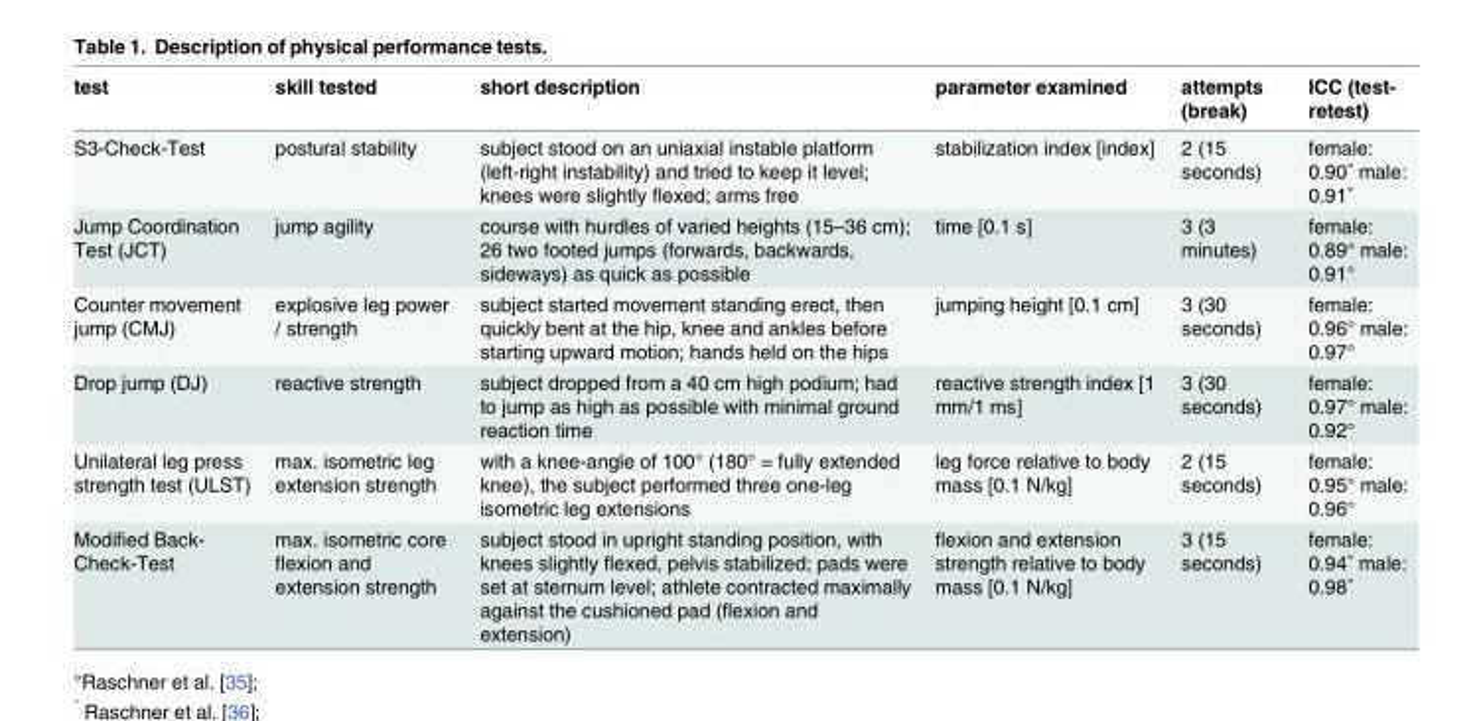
<table><thead><tr><td>test</td><td>skill tested</td><td>short description</td><td>parameter examined</td><td>attempts (break)</td><td>ICC (test- retest)</td></tr></thead><tbody><tr><td>S3-Check-Test</td><td>postural stability</td><td>subject stood on an uniaxial instable platform (left-right instability) and tried to keep it level; knees were slightly flexed; arms free</td><td>stabilization index [index]</td><td>2 (15 seconds)</td><td>female: 0.90ˇ male: 0.91ˇ</td></tr><tr><td>Jump Coordination Test (JCT)</td><td>jump agility</td><td>course with hurdles of varied heights (15–36 cm); 26 two footed jumps (forwards, backwards, sideways) as quick as possible</td><td>time [0.1 s]</td><td>3 (3 minutes)</td><td>female: 0.89° male: 0.91°</td></tr><tr><td>Counter movement jump (CMJ)</td><td>explosive leg power / strength</td><td>subject started movement standing erect, then quickly bent at the hip, knee and ankles before starting upward motion; hands held on the hips</td><td>jumping height [0.1 cm]</td><td>3 (30 seconds)</td><td>female: 0.96° male: 0.97°</td></tr><tr><td>Drop jump (DJ)</td><td>reactive strength</td><td>subject dropped from a 40 cm high podium; had to jump as high as possible with minimal ground reaction time</td><td>reactive strength index [1 mm/1 ms]</td><td>3 (30 seconds)</td><td>female: 0.97° male: 0.92°</td></tr><tr><td>Unilateral leg press strength test (ULST)</td><td>max. isometric leg extension strength</td><td>with a knee-angle of 100° (180° = fully extended knee), the subject performed three one-leg isometric leg extensions</td><td>leg force relative to body mass [0.1 N/kg]</td><td>2 (15 seconds)</td><td>female: 0.95° male: 0.96°</td></tr><tr><td>Modified Back- Check-Test</td><td>max. isometric core flexion and extension strength</td><td>subject stood in upright standing position, with knees slightly flexed, pelvis stabilized; pads were set at sternum level; athlete contracted maximally against the cushioned pad (flexion and extension)</td><td>flexion and extension strength relative to body mass [0.1 N/kg]</td><td>3 (15 seconds)</td><td>female: 0.94ˇ male: 0.98ˇ</td></tr></tbody></table>